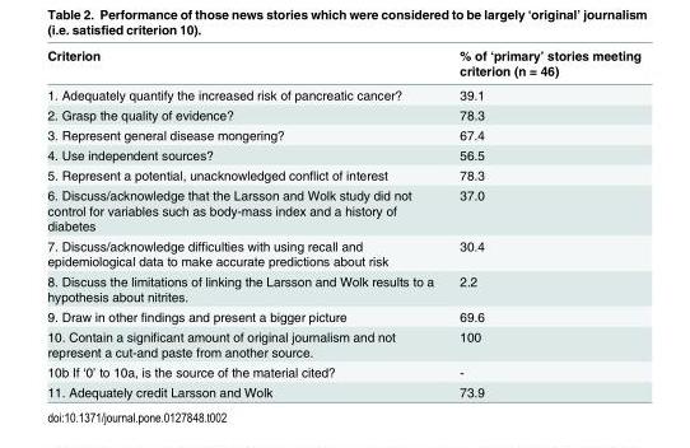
<table><thead><tr><td>Criterion</td><td>% of ‘primary’ stories meeting criterion (n = 46)</td></tr></thead><tbody><tr><td>1. Adequately quantify the increased risk of pancreatic cancer?</td><td>39.1</td></tr><tr><td>2. Grasp the quality of evidence?</td><td>78.3</td></tr><tr><td>3. Represent general disease mongering?</td><td>67.4</td></tr><tr><td>4. Use independent sources?</td><td>56.5</td></tr><tr><td>5. Represent a potential, unacknowledged conflict of interest</td><td>78.3</td></tr><tr><td>6. Discuss/acknowledge that the Larsson and Wolk study did not control for variables such as body-mass index and a history of diabetes</td><td>37.0</td></tr><tr><td>7. Discuss/acknowledge difficulties with using recall and epidemiological data to make accurate predictions about risk</td><td>30.4</td></tr><tr><td>8. Discuss the limitations of linking the Larsson and Wolk results to a hypothesis about nitrites.</td><td>2.2</td></tr><tr><td>9. Draw in other findings and present a bigger picture</td><td>69.6</td></tr><tr><td>10. Contain a significant amount of original journalism and not represent a cut-and paste from another source.</td><td>100</td></tr><tr><td>10b If ‘0’ to 10a, is the source of the material cited?</td><td>-</td></tr><tr><td>11. Adequately credit Larsson and Wolk</td><td>73.9</td></tr></tbody></table>